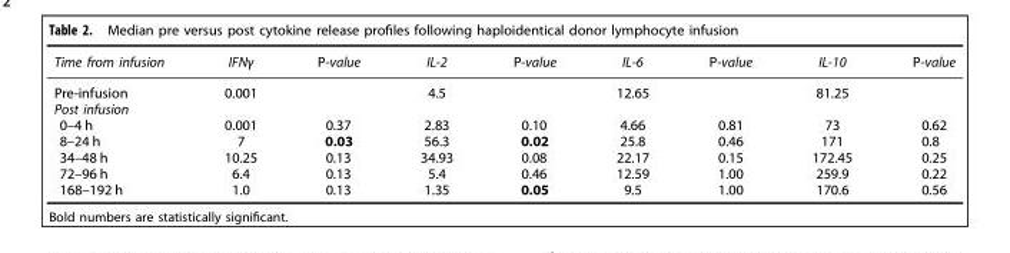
<table><thead><tr><td>Time from infusion</td><td>IFNγ</td><td>P-value</td><td>IL-2</td><td>P-value</td><td>IL-6</td><td>P-value</td><td>IL-10</td><td>P-value</td></tr></thead><tbody><tr><td>Pre-infusion</td><td>0.001</td><td></td><td>4.5</td><td></td><td>12.65</td><td></td><td>81.25</td><td></td></tr><tr><td colspan="9">Post infusion</td></tr><tr><td>0–4 h</td><td>0.001</td><td>0.37</td><td>2.83</td><td>0.10</td><td>4.66</td><td>0.81</td><td>73</td><td>0.62</td></tr><tr><td>8–24 h</td><td>7</td><td>0.03</td><td>56.3</td><td>0.02</td><td>25.8</td><td>0.46</td><td>171</td><td>0.8</td></tr><tr><td>34–48 h</td><td>10.25</td><td>0.13</td><td>34.93</td><td>0.08</td><td>22.17</td><td>0.15</td><td>172.45</td><td>0.25</td></tr><tr><td>72–96 h</td><td>6.4</td><td>0.13</td><td>5.4</td><td>0.46</td><td>12.59</td><td>1.00</td><td>259.9</td><td>0.22</td></tr><tr><td>168–192 h</td><td>1.0</td><td>0.13</td><td>1.35</td><td>0.05</td><td>9.5</td><td>1.00</td><td>170.6</td><td>0.56</td></tr></tbody></table>